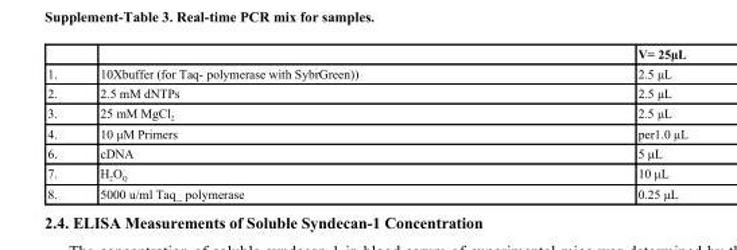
<table><thead><tr><td></td><td></td><td>V= 25μL</td></tr></thead><tbody><tr><td>1.</td><td>10Хbuffer (for Taq- polymerase with SybrGreen))</td><td>2.5 μL</td></tr><tr><td>2.</td><td>2.5 mM dNTPs</td><td>2.5 μL</td></tr><tr><td>3.</td><td>25 mM MgCl<sub>2</sub></td><td>2.5 μL</td></tr><tr><td>4.</td><td>10 μM Primers</td><td>per1.0 μL</td></tr><tr><td>6.</td><td>cDNA</td><td>5 μL</td></tr><tr><td>7.</td><td>Н<sub>2</sub>О<sub>Q</sub></td><td>10 μL</td></tr><tr><td>8.</td><td>5000 u/ml Taq_ polymerase</td><td>0.25 μL</td></tr></tbody></table>